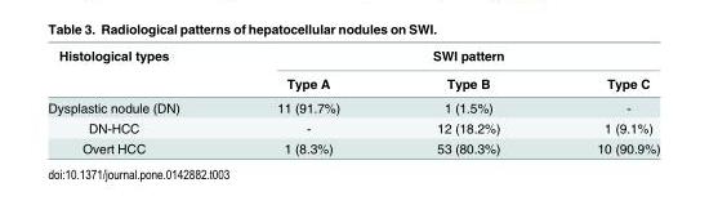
<table><thead><tr><td rowspan="2">Histological types</td><td colspan="3">SWI pattern</td></tr><tr><td>Type A</td><td>Type B</td><td>Type C</td></tr></thead><tbody><tr><td>Dysplastic nodule (DN)</td><td>11 (91.7%)</td><td>1 (1.5%)</td><td>-</td></tr><tr><td>DN-HCC</td><td>-</td><td>12 (18.2%)</td><td>1 (9.1%)</td></tr><tr><td>Overt HCC</td><td>1 (8.3%)</td><td>53 (80.3%)</td><td>10 (90.9%)</td></tr></tbody></table>